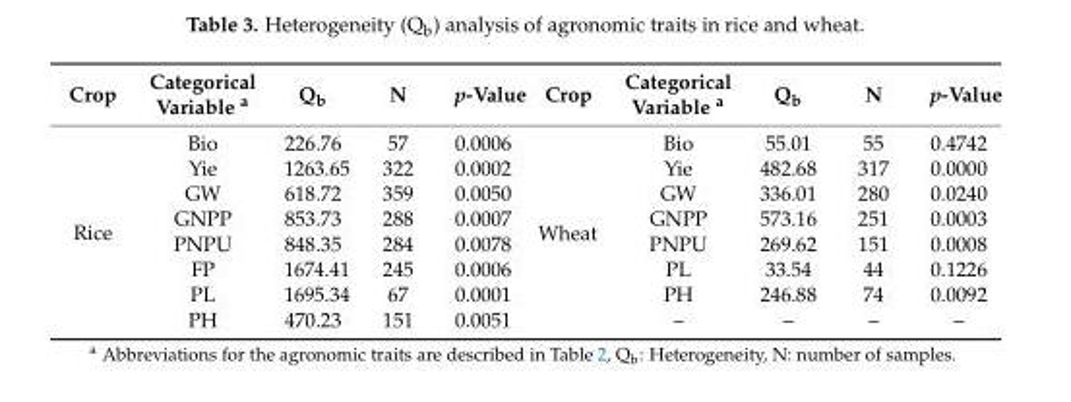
<table><thead><tr><td>Crop</td><td>Categorical Variable <sup>a</sup></td><td>Q<sub>b</sub></td><td>N</td><td>p-Value</td><td>Crop</td><td>Categorical Variable <sup>a</sup></td><td>Q<sub>b</sub></td><td>N</td><td>p-Value</td></tr></thead><tbody><tr><td rowspan="8">Rice</td><td>Bio</td><td>226.76</td><td>57</td><td>0.0006</td><td rowspan="8">Wheat</td><td>Bio</td><td>55.01</td><td>55</td><td>0.4742</td></tr><tr><td>Yie</td><td>1263.65</td><td>322</td><td>0.0002</td><td>Yie</td><td>482.68</td><td>317</td><td>0.0000</td></tr><tr><td>GW</td><td>618.72</td><td>359</td><td>0.0050</td><td>GW</td><td>336.01</td><td>280</td><td>0.0240</td></tr><tr><td>GNPP</td><td>853.73</td><td>288</td><td>0.0007</td><td>GNPP</td><td>573.16</td><td>251</td><td>0.0003</td></tr><tr><td>PNPU</td><td>848.35</td><td>284</td><td>0.0078</td><td>PNPU</td><td>269.62</td><td>151</td><td>0.0008</td></tr><tr><td>FP</td><td>1674.41</td><td>245</td><td>0.0006</td><td>PL</td><td>33.54</td><td>44</td><td>0.1226</td></tr><tr><td>PL</td><td>1695.34</td><td>67</td><td>0.0001</td><td>PH</td><td>246.88</td><td>74</td><td>0.0092</td></tr><tr><td>PH</td><td>470.23</td><td>151</td><td>0.0051</td><td>–</td><td>–</td><td>–</td><td>–</td></tr></tbody></table>